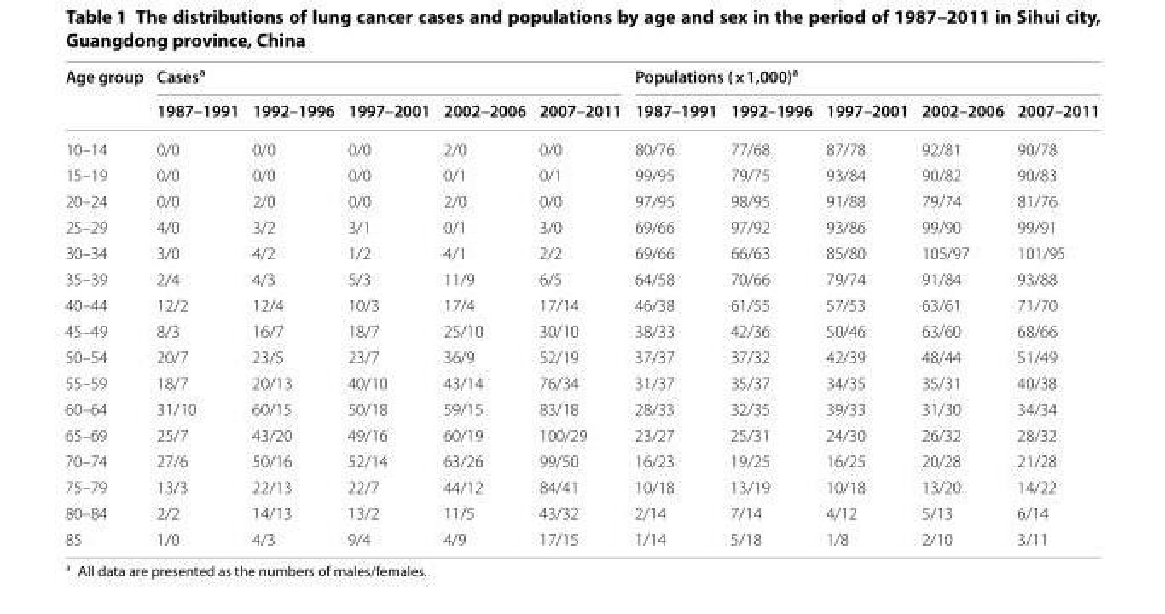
<table><thead><tr><td rowspan="2">Age group</td><td colspan="5">Cases<sup>a</sup></td><td colspan="5">Populations (×1,000)<sup>a</sup></td></tr><tr><td>1987–1991</td><td>1992–1996</td><td>1997–2001</td><td>2002–2006</td><td>2007–2011</td><td>1987–1991</td><td>1992–1996</td><td>1997–2001</td><td>2002–2006</td><td>2007–2011</td></tr></thead><tbody><tr><td>10–14</td><td>0/0</td><td>0/0</td><td>0/0</td><td>2/0</td><td>0/0</td><td>80/76</td><td>77/68</td><td>87/78</td><td>92/81</td><td>90/78</td></tr><tr><td>15–19</td><td>0/0</td><td>0/0</td><td>0/0</td><td>0/1</td><td>0/1</td><td>99/95</td><td>79/75</td><td>93/84</td><td>90/82</td><td>90/83</td></tr><tr><td>20–24</td><td>0/0</td><td>2/0</td><td>0/0</td><td>2/0</td><td>0/0</td><td>97/95</td><td>98/95</td><td>91/88</td><td>79/74</td><td>81/76</td></tr><tr><td>25–29</td><td>4/0</td><td>3/2</td><td>3/1</td><td>0/1</td><td>3/0</td><td>69/66</td><td>97/92</td><td>93/86</td><td>99/90</td><td>99/91</td></tr><tr><td>30–34</td><td>3/0</td><td>4/2</td><td>1/2</td><td>4/1</td><td>2/2</td><td>69/66</td><td>66/63</td><td>85/80</td><td>105/97</td><td>101/95</td></tr><tr><td>35–39</td><td>2/4</td><td>4/3</td><td>5/3</td><td>11/9</td><td>6/5</td><td>64/58</td><td>70/66</td><td>79/74</td><td>91/84</td><td>93/88</td></tr><tr><td>40–44</td><td>12/2</td><td>12/4</td><td>10/3</td><td>17/4</td><td>17/14</td><td>46/38</td><td>61/55</td><td>57/53</td><td>63/61</td><td>71/70</td></tr><tr><td>45–49</td><td>8/3</td><td>16/7</td><td>18/7</td><td>25/10</td><td>30/10</td><td>38/33</td><td>42/36</td><td>50/46</td><td>63/60</td><td>68/66</td></tr><tr><td>50–54</td><td>20/7</td><td>23/5</td><td>23/7</td><td>36/9</td><td>52/19</td><td>37/37</td><td>37/32</td><td>42/39</td><td>48/44</td><td>51/49</td></tr><tr><td>55–59</td><td>18/7</td><td>20/13</td><td>40/10</td><td>43/14</td><td>76/34</td><td>31/37</td><td>35/37</td><td>34/35</td><td>35/31</td><td>40/38</td></tr><tr><td>60–64</td><td>31/10</td><td>60/15</td><td>50/18</td><td>59/15</td><td>83/18</td><td>28/33</td><td>32/35</td><td>39/33</td><td>31/30</td><td>34/34</td></tr><tr><td>65–69</td><td>25/7</td><td>43/20</td><td>49/16</td><td>60/19</td><td>100/29</td><td>23/27</td><td>25/31</td><td>24/30</td><td>26/32</td><td>28/32</td></tr><tr><td>70–74</td><td>27/6</td><td>50/16</td><td>52/14</td><td>63/26</td><td>99/50</td><td>16/23</td><td>19/25</td><td>16/25</td><td>20/28</td><td>21/28</td></tr><tr><td>75–79</td><td>13/3</td><td>22/13</td><td>22/7</td><td>44/12</td><td>84/41</td><td>10/18</td><td>13/19</td><td>10/18</td><td>13/20</td><td>14/22</td></tr><tr><td>80–84</td><td>2/2</td><td>14/13</td><td>13/2</td><td>11/5</td><td>43/32</td><td>2/14</td><td>7/14</td><td>4/12</td><td>5/13</td><td>6/14</td></tr><tr><td>85</td><td>1/0</td><td>4/3</td><td>9/4</td><td>4/9</td><td>17/15</td><td>1/14</td><td>5/18</td><td>1/8</td><td>2/10</td><td>3/11</td></tr></tbody></table>